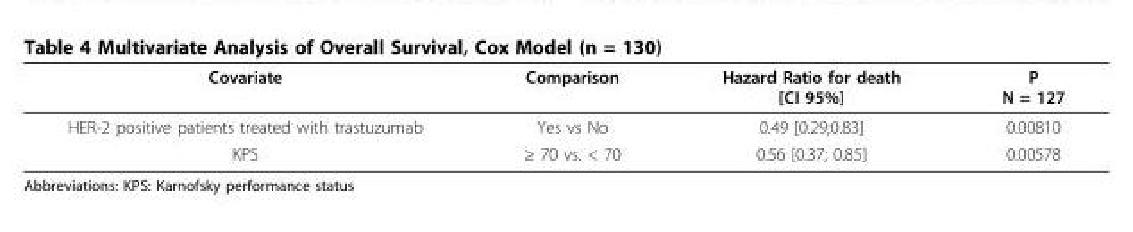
<table><thead><tr><td>Covariate</td><td>Comparison</td><td>Hazard Ratio for death [CI 95%]</td><td>P N = 127</td></tr></thead><tbody><tr><td>HER-2 positive patients treated with trastuzumab</td><td>Yes vs No</td><td>0.49 [0.29;0.83]</td><td>0.00810</td></tr><tr><td>KPS</td><td>≥ 70 vs. &lt; 70</td><td>0.56 [0.37; 0.85]</td><td>0.00578</td></tr></tbody></table>